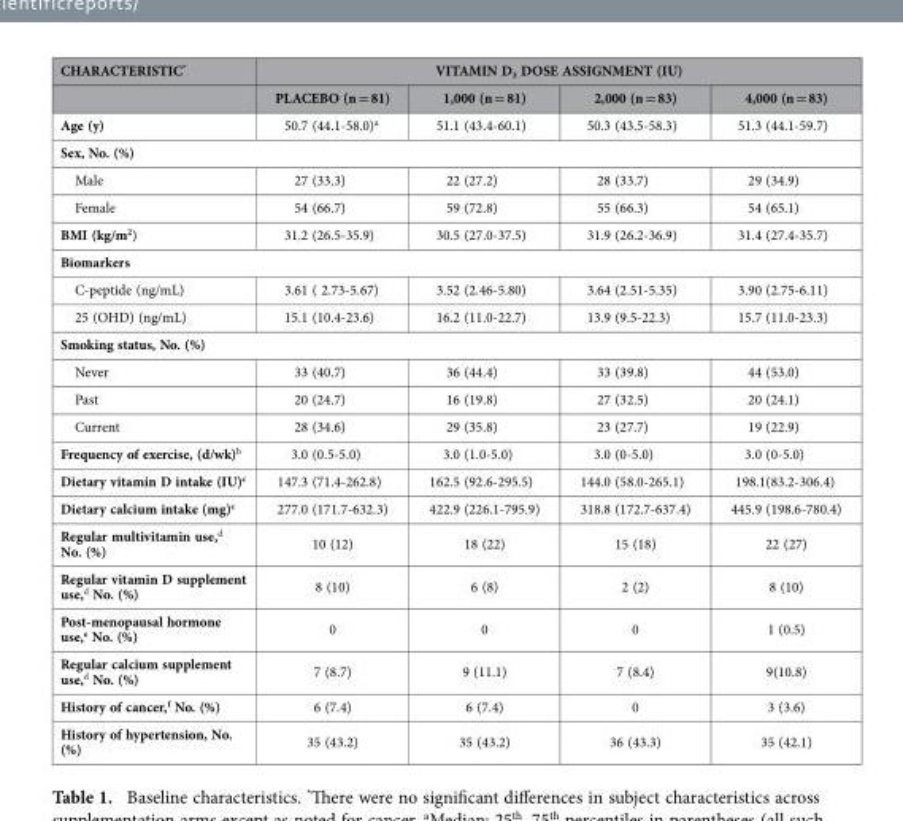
<table><thead><tr><td rowspan="2">CHARACTERISTIC*</td><td colspan="4">VITAMIN D<sub>3</sub> DOSE ASSIGNMENT (IU)</td></tr><tr><td>PLACEBO (n = 81)</td><td>1,000 (n = 81)</td><td>2,000 (n = 83)</td><td>4,000 (n = 83)</td></tr></thead><tbody><tr><td>Age (y)</td><td>50.7 (44.1-58.0)<sup>a</sup></td><td>51.1 (43.4-60.1)</td><td>50.3 (43.5-58.3)</td><td>51.3 (44.1-59.7)</td></tr><tr><td colspan="5">Sex, No. (%)</td></tr><tr><td>Male</td><td>27 (33.3)</td><td>22 (27.2)</td><td>28 (33.7)</td><td>29 (34.9)</td></tr><tr><td>Female</td><td>54 (66.7)</td><td>59 (72.8)</td><td>55 (66.3)</td><td>54 (65.1)</td></tr><tr><td>BMI (kg/m<sup>2</sup>)</td><td>31.2 (26.5-35.9)</td><td>30.5 (27.0-37.5)</td><td>31.9 (26.2-36.9)</td><td>31.4 (27.4-35.7)</td></tr><tr><td colspan="5">Biomarkers</td></tr><tr><td>C-peptide (ng/mL)</td><td>3.61 ( 2.73-5.67)</td><td>3.52 (2.46-5.80)</td><td>3.64 (2.51-5.35)</td><td>3.90 (2.75-6.11)</td></tr><tr><td>25 (OHD) (ng/mL)</td><td>15.1 (10.4-23.6)</td><td>16.2 (11.0-22.7)</td><td>13.9 (9.5-22.3)</td><td>15.7 (11.0-23.3)</td></tr><tr><td colspan="5">Smoking status, No. (%)</td></tr><tr><td>Never</td><td>33 (40.7)</td><td>36 (44.4)</td><td>33 (39.8)</td><td>44 (53.0)</td></tr><tr><td>Past</td><td>20 (24.7)</td><td>16 (19.8)</td><td>27 (32.5)</td><td>20 (24.1)</td></tr><tr><td>Current</td><td>28 (34.6)</td><td>29 (35.8)</td><td>23 (27.7)</td><td>19 (22.9)</td></tr><tr><td>Frequency of exercise, (d/wk)<sup>b</sup></td><td>3.0 (0.5-5.0)</td><td>3.0 (1.0-5.0)</td><td>3.0 (0-5.0)</td><td>3.0 (0-5.0)</td></tr><tr><td>Dietary vitamin D intake (IU)<sup>c</sup></td><td>147.3 (71.4-262.8)</td><td>162.5 (92.6-295.5)</td><td>144.0 (58.0-265.1)</td><td>198.1(83.2-306.4)</td></tr><tr><td>Dietary calcium intake (mg)<sup>c</sup></td><td>277.0 (171.7-632.3)</td><td>422.9 (226.1-795.9)</td><td>318.8 (172.7-637.4)</td><td>445.9 (198.6-780.4)</td></tr><tr><td>Regular multivitamin use,<sup>d</sup> No. (%)</td><td>10 (12)</td><td>18 (22)</td><td>15 (18)</td><td>22 (27)</td></tr><tr><td>Regular vitamin D supplement use,<sup>d</sup> No. (%)</td><td>8 (10)</td><td>6 (8)</td><td>2 (2)</td><td>8 (10)</td></tr><tr><td>Post-menopausal hormone use,<sup>e</sup> No. (%)</td><td>0</td><td>0</td><td>0</td><td>1 (0.5)</td></tr><tr><td>Regular calcium supplement use,<sup>d</sup> No. (%)</td><td>7 (8.7)</td><td>9 (11.1)</td><td>7 (8.4)</td><td>9(10.8)</td></tr><tr><td>History of cancer,<sup>f</sup> No. (%)</td><td>6 (7.4)</td><td>6 (7.4)</td><td>0</td><td>3 (3.6)</td></tr><tr><td>History of hypertension, No. (%)</td><td>35 (43.2)</td><td>35 (43.2)</td><td>36 (43.3)</td><td>35 (42.1)</td></tr></tbody></table>